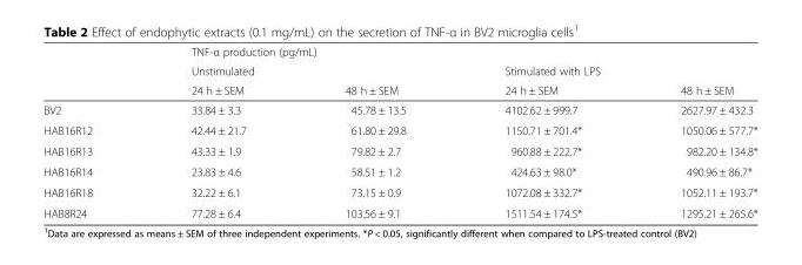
<table><thead><tr><td rowspan="3"></td><td colspan="4">TNF-α production (pg/mL)</td></tr><tr><td colspan="2">Unstimulated</td><td colspan="2">Stimulated with LPS</td></tr><tr><td>24 h ± SEM</td><td>48 h ± SEM</td><td>24 h ± SEM</td><td>48 h ± SEM</td></tr></thead><tbody><tr><td>BV2</td><td>33.84 ± 3.3</td><td>45.78 ± 13.5</td><td>4102.62 ± 999.7</td><td>2627.97 ± 432.3</td></tr><tr><td>HAB16R12</td><td>42.44 ± 21.7</td><td>61.80 ± 29.8</td><td>1150.71 ± 701.4*</td><td>1050.06 ± 577.7*</td></tr><tr><td>HAB16R13</td><td>43.33 ± 1.9</td><td>79.82 ± 2.7</td><td>960.88 ± 222.7*</td><td>982.20 ± 134.8*</td></tr><tr><td>HAB16R14</td><td>23.83 ± 4.6</td><td>58.51 ± 1.2</td><td>424.63 ± 98.0*</td><td>490.96 ± 86.7*</td></tr><tr><td>HAB16R18</td><td>32.22 ± 6.1</td><td>73.15 ± 0.9</td><td>1072.08 ± 332.7*</td><td>1052.11 ± 193.7*</td></tr><tr><td>HAB8R24</td><td>77.28 ± 6.4</td><td>103.56 ± 9.1</td><td>1511.54 ± 174.5*</td><td>1295.21 ± 265.6*</td></tr></tbody></table>